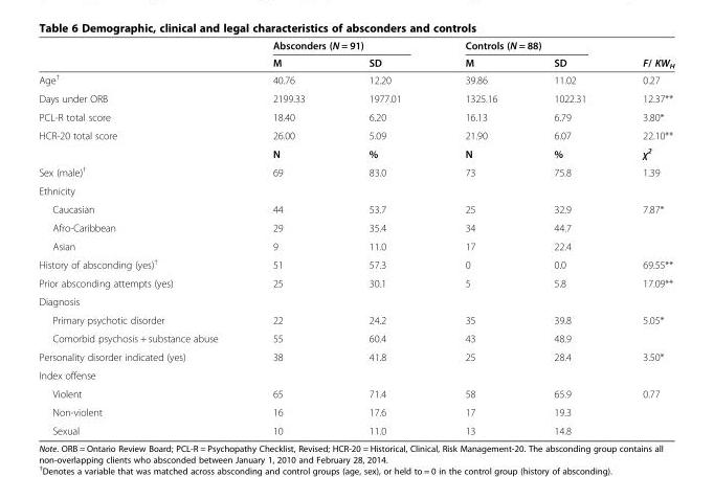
<table><thead><tr><td rowspan="2"></td><td colspan="2">Absconders (N = 91)</td><td colspan="2">Controls (N = 88)</td><td rowspan="2">F/ KW<sub>H</sub></td></tr><tr><td>M</td><td>SD</td><td>M</td><td>SD</td></tr></thead><tbody><tr><td>Age<sup>†</sup></td><td>40.76</td><td>12.20</td><td>39.86</td><td>11.02</td><td>0.27</td></tr><tr><td>Days under ORB</td><td>2199.33</td><td>1977.01</td><td>1325.16</td><td>1022.31</td><td>12.37**</td></tr><tr><td>PCL-R total score</td><td>18.40</td><td>6.20</td><td>16.13</td><td>6.79</td><td>3.80*</td></tr><tr><td rowspan="2">HCR-20 total score</td><td>26.00</td><td>5.09</td><td>21.90</td><td>6.07</td><td>22.10**</td></tr><tr><td>N</td><td>%</td><td>N</td><td>%</td><td>χ<sup>2</sup></td></tr><tr><td>Sex (male)<sup>†</sup></td><td>69</td><td>83.0</td><td>73</td><td>75.8</td><td>1.39</td></tr><tr><td colspan="6">Ethnicity</td></tr><tr><td>Caucasian</td><td>44</td><td>53.7</td><td>25</td><td>32.9</td><td rowspan="3">7.87*</td></tr><tr><td>Afro-Caribbean</td><td>29</td><td>35.4</td><td>34</td><td>44.7</td></tr><tr><td>Asian</td><td>9</td><td>11.0</td><td>17</td><td>22.4</td></tr><tr><td>History of absconding (yes)<sup>†</sup></td><td>51</td><td>57.3</td><td>0</td><td>0.0</td><td>69.55**</td></tr><tr><td>Prior absconding attempts (yes)</td><td>25</td><td>30.1</td><td>5</td><td>5.8</td><td>17.09**</td></tr><tr><td colspan="6">Diagnosis</td></tr><tr><td>Primary psychotic disorder</td><td>22</td><td>24.2</td><td>35</td><td>39.8</td><td rowspan="2">5.05*</td></tr><tr><td>Comorbid psychosis + substance abuse</td><td>55</td><td>60.4</td><td>43</td><td>48.9</td></tr><tr><td>Personality disorder indicated (yes)</td><td>38</td><td>41.8</td><td>25</td><td>28.4</td><td>3.50*</td></tr><tr><td colspan="6">Index offense</td></tr><tr><td>Violent</td><td>65</td><td>71.4</td><td>58</td><td>65.9</td><td rowspan="3">0.77</td></tr><tr><td>Non-violent</td><td>16</td><td>17.6</td><td>17</td><td>19.3</td></tr><tr><td>Sexual</td><td>10</td><td>11.0</td><td>13</td><td>14.8</td></tr></tbody></table>